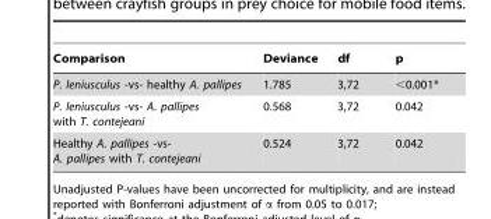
<table><thead><tr><td>Comparison</td><td>Deviance</td><td>df</td><td>p</td></tr></thead><tbody><tr><td>P. leniusculus -vs- healthy A. pallipes</td><td>1.785</td><td>3,72</td><td>&lt;0.001*</td></tr><tr><td>P. leniusculus -vs- A. pallipes with T. contejeani</td><td>0.568</td><td>3,72</td><td>0.042</td></tr><tr><td>Healthy A. pallipes -vs- A. pallipes with T. contejeani</td><td>0.524</td><td>3,72</td><td>0.042</td></tr></tbody></table>